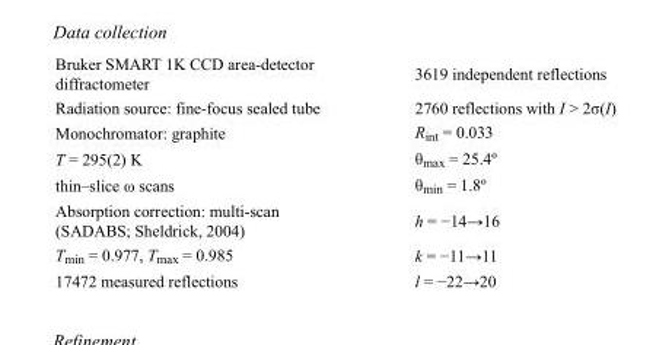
<table><tbody><tr><td>Bruker SMART 1K CCD area-detector diffractometer</td><td>3619 independent reflections</td></tr><tr><td>Radiation source: fine-focus sealed tube</td><td>2760 reflections with I &gt; 2σ(I)</td></tr><tr><td>Monochromator: graphite</td><td>R<sub>int</sub> = 0.033</td></tr><tr><td>T = 295(2) K</td><td>θ<sub>max</sub> = 25.4º</td></tr><tr><td>thin–slice ω scans</td><td>θ<sub>min</sub> = 1.8º</td></tr><tr><td>Absorption correction: multi-scan (SADABS; Sheldrick, 2004)</td><td>h = −14→16</td></tr><tr><td>T<sub>min</sub> = 0.977, T<sub>max</sub> = 0.985</td><td>k = −11→11</td></tr><tr><td>17472 measured reflections</td><td>l = −22→20</td></tr></tbody></table>